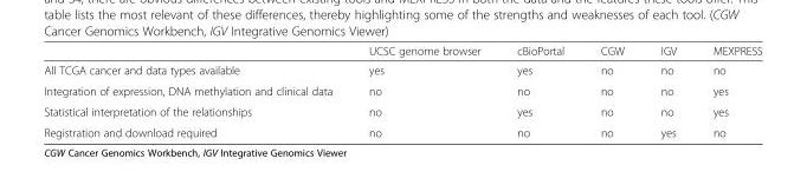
<table><thead><tr><td></td><td>UCSC genome browser</td><td>cBioPortal</td><td>CGW</td><td>IGV</td><td>MEXPRESS</td></tr></thead><tbody><tr><td>All TCGA cancer and data types available</td><td>yes</td><td>yes</td><td>no</td><td>no</td><td>no</td></tr><tr><td>Integration of expression, DNA methylation and clinical data</td><td>no</td><td>no</td><td>no</td><td>no</td><td>yes</td></tr><tr><td>Statistical interpretation of the relationships</td><td>no</td><td>yes</td><td>no</td><td>no</td><td>yes</td></tr><tr><td>Registration and download required</td><td>no</td><td>no</td><td>no</td><td>yes</td><td>no</td></tr></tbody></table>